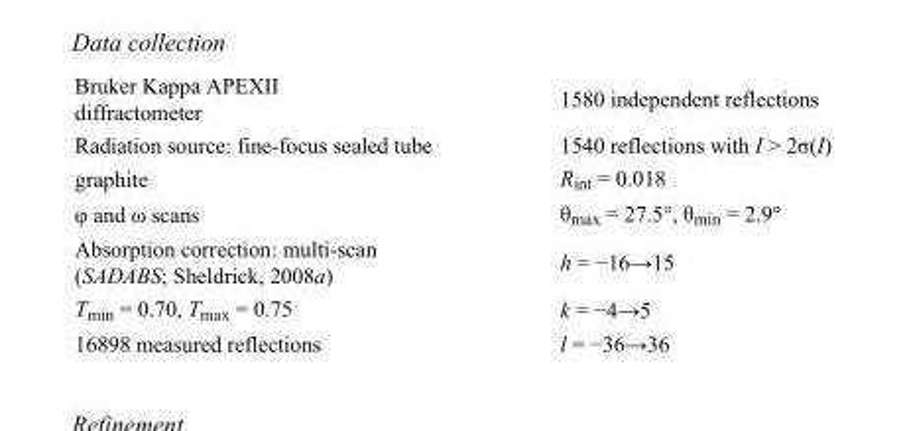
<table><tbody><tr><td>Bruker Kappa APEXII diffractometer</td><td>1580 independent reflections</td></tr><tr><td>Radiation source: fine-focus sealed tube</td><td>1540 reflections with I &gt; 2σ(I)</td></tr><tr><td>graphite</td><td>R<sub>int</sub> = 0.018</td></tr><tr><td>φ and ω scans</td><td>θ<sub>max</sub> = 27.5°, θ<sub>min</sub> = 2.9°</td></tr><tr><td>Absorption correction: multi-scan (SADABS; Sheldrick, 2008a)</td><td>h = −16→15</td></tr><tr><td>T<sub>min</sub> = 0.70, T<sub>max</sub> = 0.75</td><td>k = −4→5</td></tr><tr><td>16898 measured reflections</td><td>l = −36→36</td></tr></tbody></table>